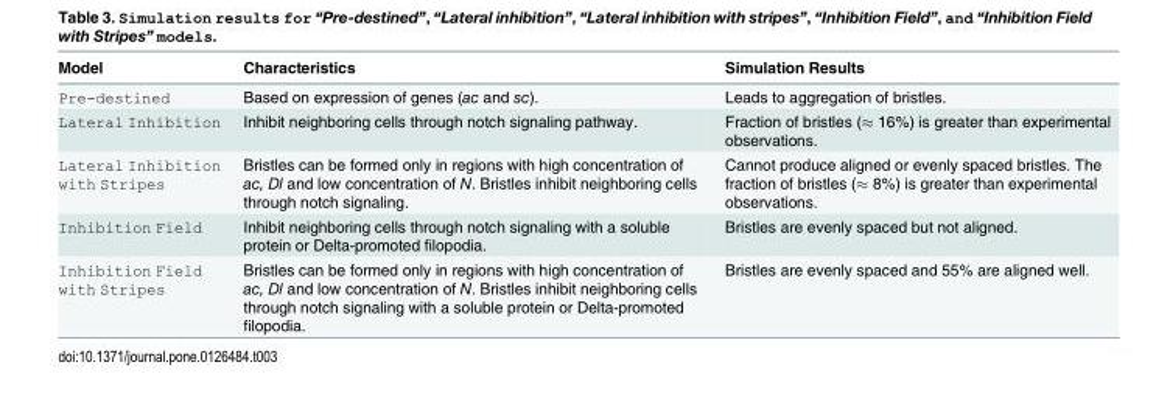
<table><thead><tr><td>Model</td><td>Characteristics</td><td>Simulation Results</td></tr></thead><tbody><tr><td>Pre-destined</td><td>Based on expression of genes (ac and sc).</td><td>Leads to aggregation of bristles.</td></tr><tr><td>Lateral Inhibition</td><td>Inhibit neighboring cells through notch signaling pathway.</td><td>Fraction of bristles (≈ 16%) is greater than experimental observations.</td></tr><tr><td>Lateral Inhibition with Stripes</td><td>Bristles can be formed only in regions with high concentration of ac, Dl and low concentration of N. Bristles inhibit neighboring cells through notch signaling.</td><td>Cannot produce aligned or evenly spaced bristles. The fraction of bristles (≈ 8%) is greater than experimental observations.</td></tr><tr><td>Inhibition Field</td><td>Inhibit neighboring cells through notch signaling with a soluble protein or Delta-promoted filopodia.</td><td>Bristles are evenly spaced but not aligned.</td></tr><tr><td>Inhibition Field with Stripes</td><td>Bristles can be formed only in regions with high concentration of ac, Dl and low concentration of N. Bristles inhibit neighboring cells through notch signaling with a soluble protein or Delta-promoted filopodia.</td><td>Bristles are evenly spaced and 55% are aligned well.</td></tr></tbody></table>